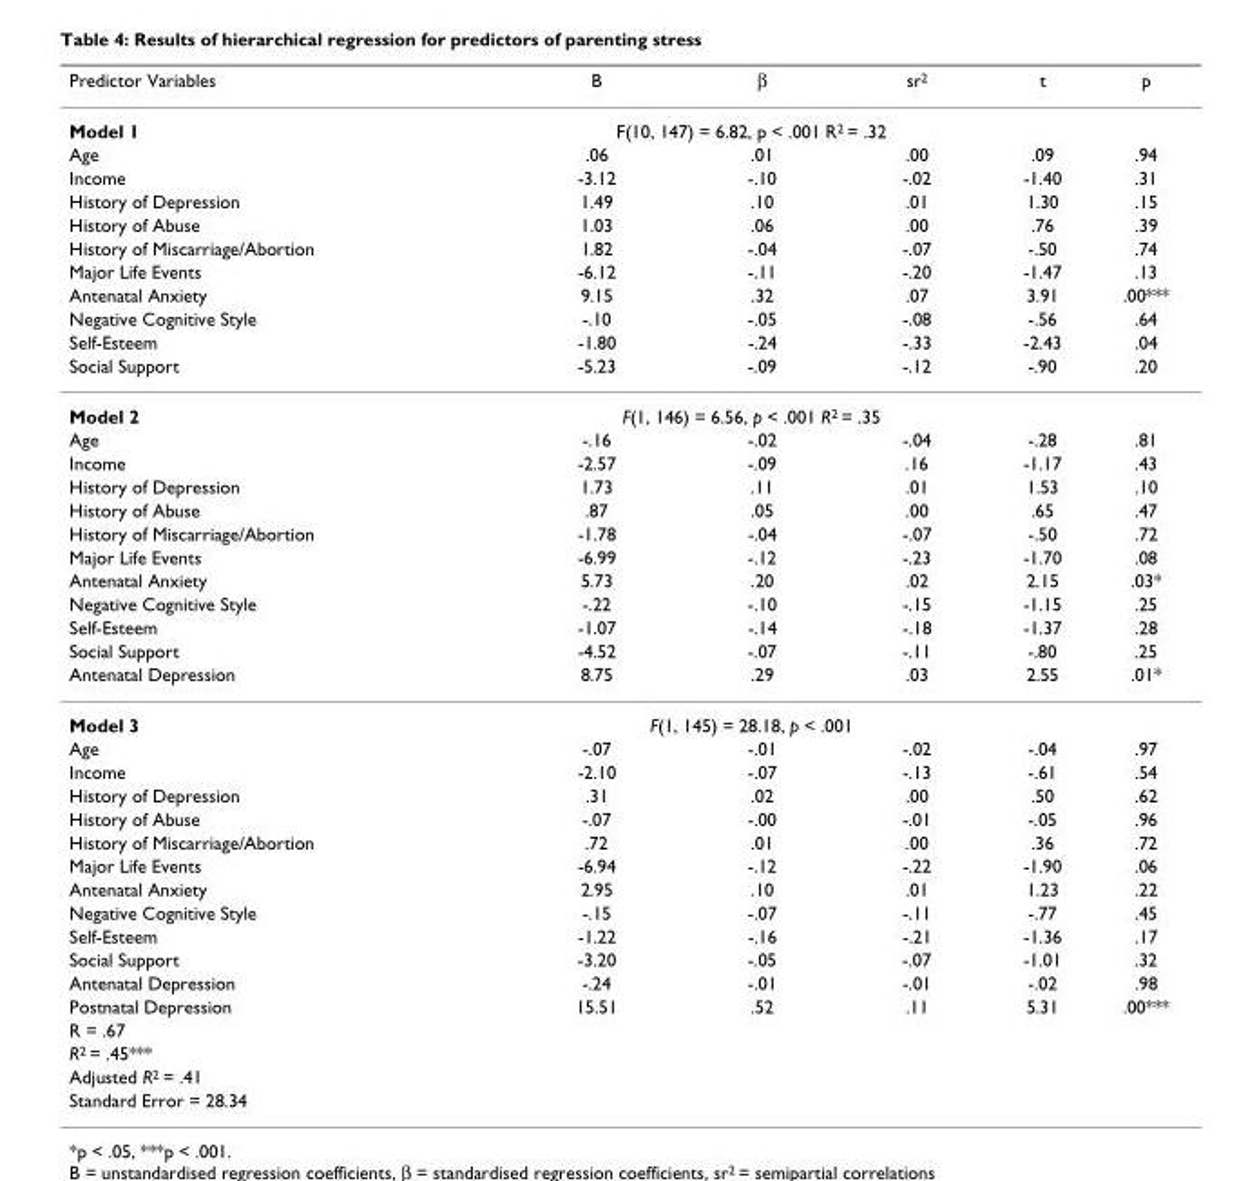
<table><thead><tr><td>Predictor Variables</td><td>B</td><td>β</td><td>sr<sup>2</sup></td><td>t</td><td>p</td></tr></thead><tbody><tr><td>Model 1</td><td colspan="3">F(10, 147) = 6.82, p &lt; .001 R<sup>2</sup> = .32</td><td></td><td></td></tr><tr><td>Age</td><td>.06</td><td>.01</td><td>.00</td><td>.09</td><td>.94</td></tr><tr><td>Income</td><td>-3.12</td><td>-.10</td><td>-.02</td><td>-1.40</td><td>.31</td></tr><tr><td>History of Depression</td><td>1.49</td><td>.10</td><td>.01</td><td>1.30</td><td>.15</td></tr><tr><td>History of Abuse</td><td>1.03</td><td>.06</td><td>.00</td><td>.76</td><td>.39</td></tr><tr><td>History of Miscarriage/Abortion</td><td>1.82</td><td>-.04</td><td>-.07</td><td>-.50</td><td>.74</td></tr><tr><td>Major Life Events</td><td>-6.12</td><td>-.11</td><td>-.20</td><td>-1.47</td><td>.13</td></tr><tr><td>Antenatal Anxiety</td><td>9.15</td><td>.32</td><td>.07</td><td>3.91</td><td>.00***</td></tr><tr><td>Negative Cognitive Style</td><td>-.10</td><td>-.05</td><td>-.08</td><td>-.56</td><td>.64</td></tr><tr><td>Self-Esteem</td><td>-1.80</td><td>-.24</td><td>-.33</td><td>-2.43</td><td>.04</td></tr><tr><td>Social Support</td><td>-5.23</td><td>-.09</td><td>-.12</td><td>-.90</td><td>.20</td></tr><tr><td>Model 2</td><td colspan="3">F(1, 146) = 6.56, p &lt; .001 R<sup>2</sup> = .35</td><td></td><td></td></tr><tr><td>Age</td><td>-.16</td><td>-.02</td><td>-.04</td><td>-.28</td><td>.81</td></tr><tr><td>Income</td><td>-2.57</td><td>-.09</td><td>.16</td><td>-1.17</td><td>.43</td></tr><tr><td>History of Depression</td><td>1.73</td><td>.11</td><td>.01</td><td>1.53</td><td>.10</td></tr><tr><td>History of Abuse</td><td>.87</td><td>.05</td><td>.00</td><td>.65</td><td>.47</td></tr><tr><td>History of Miscarriage/Abortion</td><td>-1.78</td><td>-.04</td><td>-.07</td><td>-.50</td><td>.72</td></tr><tr><td>Major Life Events</td><td>-6.99</td><td>-.12</td><td>-.23</td><td>-1.70</td><td>.08</td></tr><tr><td>Antenatal Anxiety</td><td>5.73</td><td>.20</td><td>.02</td><td>2.15</td><td>.03*</td></tr><tr><td>Negative Cognitive Style</td><td>-.22</td><td>-.10</td><td>-.15</td><td>-1.15</td><td>.25</td></tr><tr><td>Self-Esteem</td><td>-1.07</td><td>-.14</td><td>-.18</td><td>-1.37</td><td>.28</td></tr><tr><td>Social Support</td><td>-4.52</td><td>-.07</td><td>-.11</td><td>-.80</td><td>.25</td></tr><tr><td>Antenatal Depression</td><td>8.75</td><td>.29</td><td>.03</td><td>2.55</td><td>.01*</td></tr><tr><td>Model 3</td><td colspan="3">F(1, 145) = 28.18, p &lt; .001</td><td></td><td></td></tr><tr><td>Age</td><td>-.07</td><td>-.01</td><td>-.02</td><td>-.04</td><td>.97</td></tr><tr><td>Income</td><td>-2.10</td><td>-.07</td><td>-.13</td><td>-.61</td><td>.54</td></tr><tr><td>History of Depression</td><td>.31</td><td>.02</td><td>.00</td><td>.50</td><td>.62</td></tr><tr><td>History of Abuse</td><td>-.07</td><td>-.00</td><td>-.01</td><td>-.05</td><td>.96</td></tr><tr><td>History of Miscarriage/Abortion</td><td>.72</td><td>.01</td><td>.00</td><td>.36</td><td>.72</td></tr><tr><td>Major Life Events</td><td>-6.94</td><td>-.12</td><td>-.22</td><td>-1.90</td><td>.06</td></tr><tr><td>Antenatal Anxiety</td><td>2.95</td><td>.10</td><td>.01</td><td>1.23</td><td>.22</td></tr><tr><td>Negative Cognitive Style</td><td>-.15</td><td>-.07</td><td>-.11</td><td>-.77</td><td>.45</td></tr><tr><td>Self-Esteem</td><td>-1.22</td><td>-.16</td><td>-.21</td><td>-1.36</td><td>.17</td></tr><tr><td>Social Support</td><td>-3.20</td><td>-.05</td><td>-.07</td><td>-1.01</td><td>.32</td></tr><tr><td>Antenatal Depression</td><td>-.24</td><td>-.01</td><td>-.01</td><td>-.02</td><td>.98</td></tr><tr><td>Postnatal Depression</td><td>15.51</td><td>.52</td><td>.11</td><td>5.31</td><td>.00***</td></tr><tr><td colspan="6">R = .67</td></tr><tr><td colspan="6">R<sup>2</sup> = .45***</td></tr><tr><td colspan="6">Adjusted R<sup>2</sup> = .41</td></tr><tr><td>Standard Error = 28.34</td><td></td><td></td><td></td><td></td><td></td></tr></tbody></table>